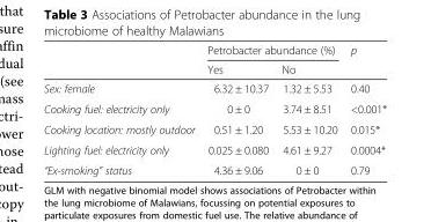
<table><thead><tr><td rowspan="2"></td><td colspan="2">Petrobacter abundance (%)</td><td rowspan="2">p</td></tr><tr><td>Yes</td><td>No</td></tr></thead><tbody><tr><td>Sex: female</td><td>6.32 ± 10.37</td><td>1.32 ± 5.53</td><td>0.40</td></tr><tr><td>Cooking fuel: electricity only</td><td>0 ± 0</td><td>3.74 ± 8.51</td><td>&lt;0.001*</td></tr><tr><td>Cooking location: mostly outdoor</td><td>0.51 ± 1.20</td><td>5.53 ± 10.20</td><td>0.015*</td></tr><tr><td>Lighting fuel: electricity only</td><td>0.025 ± 0.080</td><td>4.61 ± 9.27</td><td>0.0004*</td></tr><tr><td>“Ex-smoking” status</td><td>4.36 ± 9.06</td><td>0 ± 0</td><td>0.79</td></tr></tbody></table>